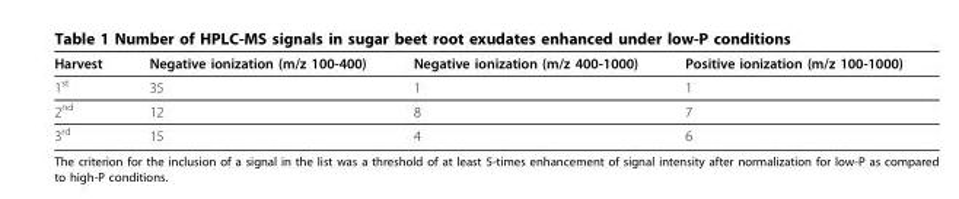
<table><thead><tr><td>Harvest</td><td>Negative ionization (m/z 100-400)</td><td>Negative ionization (m/z 400-1000)</td><td>Positive ionization (m/z 100-1000)</td></tr></thead><tbody><tr><td>1<sup>st</sup></td><td>35</td><td>1</td><td>1</td></tr><tr><td>2<sup>nd</sup></td><td>12</td><td>8</td><td>7</td></tr><tr><td>3<sup>rd</sup></td><td>15</td><td>4</td><td>6</td></tr></tbody></table>